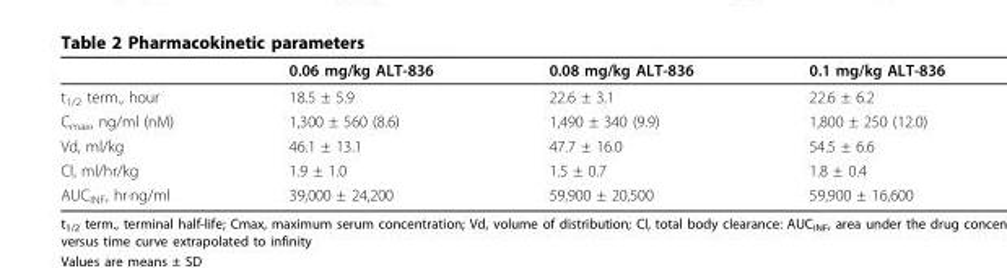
<table><thead><tr><td></td><td>0.06 mg/kg ALT-836</td><td>0.08 mg/kg ALT-836</td><td>0.1 mg/kg ALT-836</td></tr></thead><tbody><tr><td>t<sub>1/2</sub> term., hour</td><td>18.5 ± 5.9</td><td>22.6 ± 3.1</td><td>22.6 ± 6.2</td></tr><tr><td>C<sub>max</sub>, ng/ml (nM)</td><td>1,300 ± 560 (8.6)</td><td>1,490 ± 340 (9.9)</td><td>1,800 ± 250 (12.0)</td></tr><tr><td>Vd, ml/kg</td><td>46.1 ± 13.1</td><td>47.7 ± 16.0</td><td>54.5 ± 6.6</td></tr><tr><td>Cl, ml/hr/kg</td><td>1.9 ± 1.0</td><td>1.5 ± 0.7</td><td>1.8 ± 0.4</td></tr><tr><td>AUC<sub>INF</sub>, hr·ng/ml</td><td>39,000 ± 24,200</td><td>59,900 ± 20,500</td><td>59,900 ± 16,600</td></tr></tbody></table>